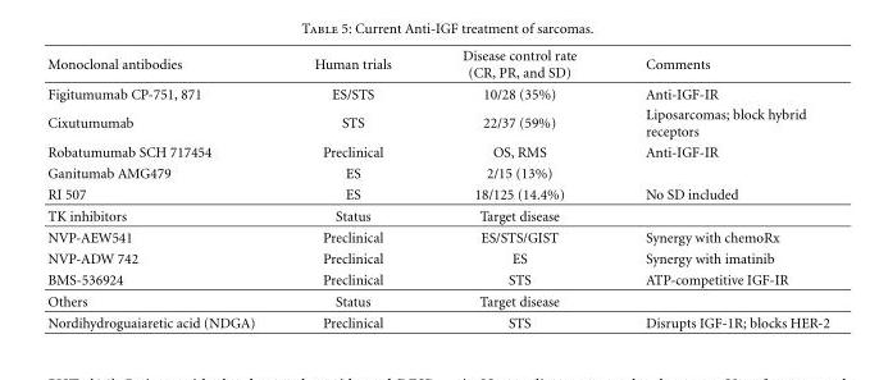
<table><thead><tr><td>Monoclonal antibodies</td><td>Human trials</td><td>Disease control rate (CR, PR, and SD)</td><td>Comments</td></tr></thead><tbody><tr><td>Figitumumab CP-751, 871</td><td>ES/STS</td><td>10/28 (35%)</td><td>Anti-IGF-IR</td></tr><tr><td>Cixutumumab</td><td>STS</td><td>22/37 (59%)</td><td>Liposarcomas; block hybrid receptors</td></tr><tr><td>Robatumumab SCH 717454</td><td>Preclinical</td><td>OS, RMS</td><td>Anti-IGF-IR</td></tr><tr><td>Ganitumab AMG479</td><td>ES</td><td>2/15 (13%)</td><td></td></tr><tr><td>RI 507</td><td>ES</td><td>18/125 (14.4%)</td><td>No SD included</td></tr><tr><td>TK inhibitors</td><td>Status</td><td>Target disease</td><td></td></tr><tr><td>NVP-AEW541</td><td>Preclinical</td><td>ES/STS/GIST</td><td>Synergy with chemoRx</td></tr><tr><td>NVP-ADW 742</td><td>Preclinical</td><td>ES</td><td>Synergy with imatinib</td></tr><tr><td>BMS-536924</td><td>Preclinical</td><td>STS</td><td>ATP-competitive IGF-IR</td></tr><tr><td>Others</td><td>Status</td><td>Target disease</td><td></td></tr><tr><td>Nordihydroguaiaretic acid (NDGA)</td><td>Preclinical</td><td>STS</td><td>Disrupts IGF-1R; blocks HER-2</td></tr></tbody></table>